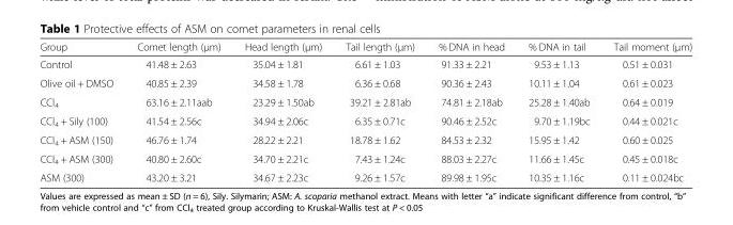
<table><thead><tr><td>Group</td><td>Comet length (μm)</td><td>Head length (μm)</td><td>Tail length (μm)</td><td>% DNA in head</td><td>% DNA in tail</td><td>Tail moment (μm)</td></tr></thead><tbody><tr><td>Control</td><td>41.48 ± 2.63</td><td>35.04 ± 1.81</td><td>6.61 ± 1.03</td><td>91.33 ± 2.21</td><td>9.53 ± 1.13</td><td>0.51 ± 0.031</td></tr><tr><td>Olive oil + DMSO</td><td>40.85 ± 2.39</td><td>34.58 ± 1.78</td><td>6.36 ± 0.68</td><td>90.36 ± 2.43</td><td>10.11 ± 1.04</td><td>0.61 ± 0.023</td></tr><tr><td>CCl<sub>4</sub></td><td>63.16 ± 2.11aab</td><td>23.29 ± 1.50ab</td><td>39.21 ± 2.81ab</td><td>74.81 ± 2.18ab</td><td>25.28 ± 1.40ab</td><td>0.64 ± 0.019</td></tr><tr><td>CCl<sub>4</sub> + Sily (100)</td><td>41.54 ± 2.56c</td><td>34.94 ± 2.06c</td><td>6.35 ± 0.71c</td><td>90.46 ± 2.52c</td><td>9.70 ± 1.19bc</td><td>0.44 ± 0.021c</td></tr><tr><td>CCl<sub>4</sub> + ASM (150)</td><td>46.76 ± 1.74</td><td>28.22 ± 2.21</td><td>18.78 ± 1.62</td><td>84.53 ± 2.32</td><td>15.95 ± 1.42</td><td>0.60 ± 0.025</td></tr><tr><td>CCl<sub>4</sub> + ASM (300)</td><td>40.80 ± 2.60c</td><td>34.70 ± 2.21c</td><td>7.43 ± 1.24c</td><td>88.03 ± 2.27c</td><td>11.66 ± 1.45c</td><td>0.45 ± 0.018c</td></tr><tr><td>ASM (300)</td><td>43.20 ± 3.21</td><td>34.67 ± 2.23c</td><td>9.26 ± 1.57c</td><td>89.98 ± 1.95c</td><td>10.35 ± 1.16c</td><td>0.11 ± 0.024bc</td></tr></tbody></table>